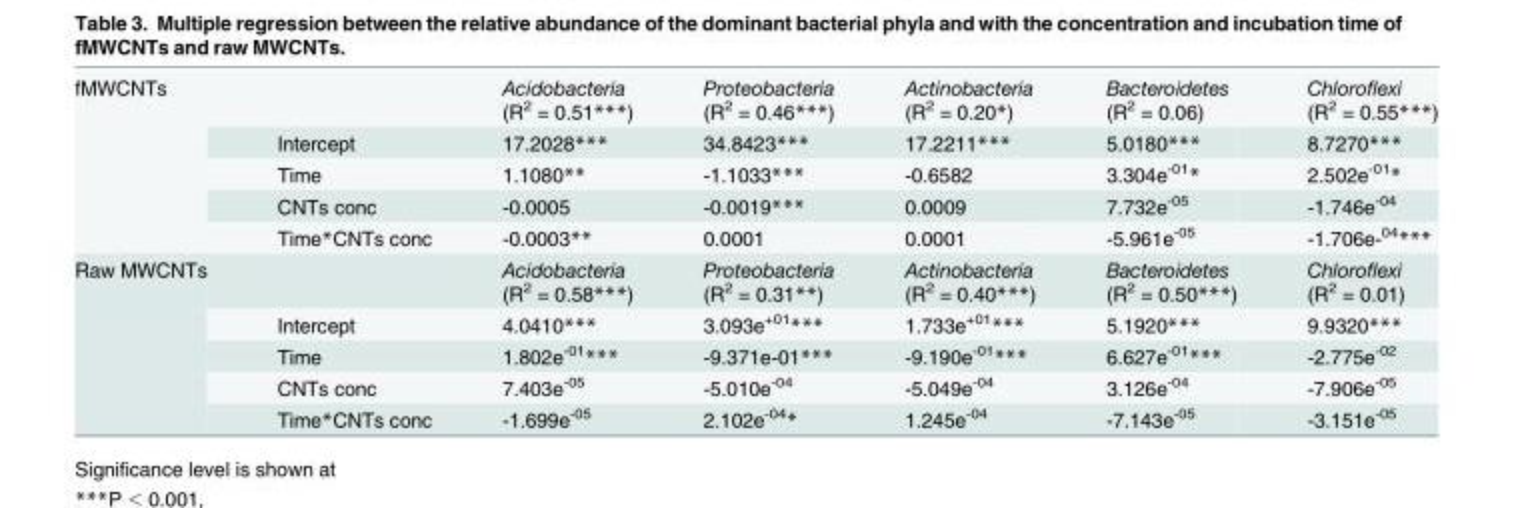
<table><tbody><tr><td rowspan="5">fMWCNTs</td><td></td><td>Acidobacteria (R<sup>2</sup> = 0.51***)</td><td>Proteobacteria (R<sup>2</sup> = 0.46***)</td><td>Actinobacteria (R<sup>2</sup> = 0.20*)</td><td>Bacteroidetes (R<sup>2</sup> = 0.06)</td><td>Chloroflexi (R<sup>2</sup> = 0.55***)</td></tr><tr><td>Intercept</td><td>17.2028***</td><td>34.8423***</td><td>17.2211***</td><td>5.0180***</td><td>8.7270***</td></tr><tr><td>Time</td><td>1.1080**</td><td>-1.1033***</td><td>-0.6582</td><td>3.304e<sup>-01</sup>*</td><td>2.502e<sup>-01</sup>*</td></tr><tr><td>CNTs conc</td><td>-0.0005</td><td>-0.0019***</td><td>0.0009</td><td>7.732e<sup>-05</sup></td><td>-1.746e<sup>-04</sup></td></tr><tr><td>Time*CNTs conc</td><td>-0.0003**</td><td>0.0001</td><td>0.0001</td><td>-5.961e<sup>-05</sup></td><td>-1.706e-<sup>04</sup>***</td></tr><tr><td rowspan="5">Raw MWCNTs</td><td></td><td>Acidobacteria (R<sup>2</sup> = 0.58***)</td><td>Proteobacteria (R<sup>2</sup> = 0.31**)</td><td>Actinobacteria (R<sup>2</sup> = 0.40***)</td><td>Bacteroidetes (R<sup>2</sup> = 0.50***)</td><td>Chloroflexi (R<sup>2</sup> = 0.01)</td></tr><tr><td>Intercept</td><td>4.0410***</td><td>3.093e<sup>+01</sup>***</td><td>1.733e<sup>+01</sup>***</td><td>5.1920***</td><td>9.9320***</td></tr><tr><td>Time</td><td>1.802e<sup>-01</sup>***</td><td>-9.371e-01***</td><td>-9.190e<sup>-01</sup>***</td><td>6.627e<sup>-01</sup>***</td><td>-2.775e<sup>-02</sup></td></tr><tr><td>CNTs conc</td><td>7.403e<sup>-05</sup></td><td>-5.010e<sup>-04</sup></td><td>-5.049e<sup>-04</sup></td><td>3.126e<sup>-04</sup></td><td>-7.906e<sup>-05</sup></td></tr><tr><td>Time*CNTs conc</td><td>-1.699e<sup>-05</sup></td><td>2.102e<sup>-04</sup>*</td><td>1.245e<sup>-04</sup></td><td>-7.143e<sup>-05</sup></td><td>-3.151e<sup>-05</sup></td></tr></tbody></table>